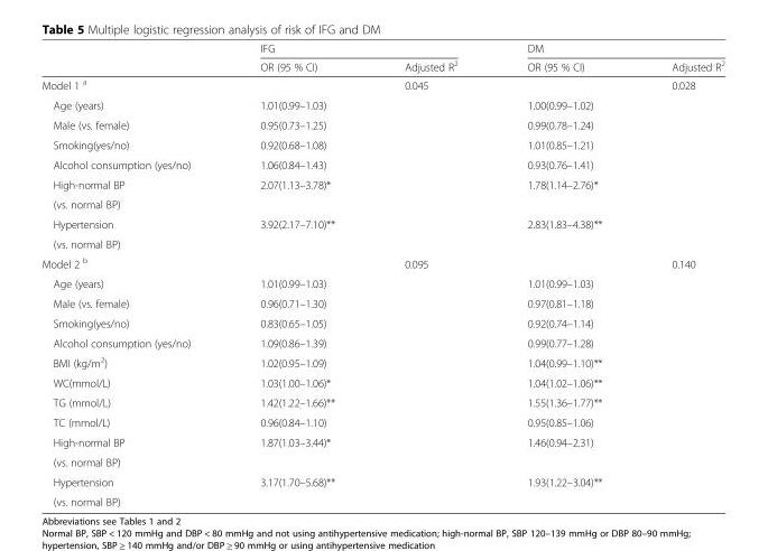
<table><thead><tr><td rowspan="2"></td><td colspan="2">IFG</td><td colspan="2">DM</td></tr><tr><td>OR (95 % CI)</td><td>Adjusted R<sup>2</sup></td><td>OR (95 % CI)</td><td>Adjusted R<sup>2</sup></td></tr></thead><tbody><tr><td>Model 1 <sup>a</sup></td><td></td><td>0.045</td><td></td><td>0.028</td></tr><tr><td>Age (years)</td><td>1.01(0.99–1.03)</td><td></td><td>1.00(0.99–1.02)</td><td></td></tr><tr><td>Male (vs. female)</td><td>0.95(0.73–1.25)</td><td></td><td>0.99(0.78–1.24)</td><td></td></tr><tr><td>Smoking(yes/no)</td><td>0.92(0.68–1.08)</td><td></td><td>1.01(0.85–1.21)</td><td></td></tr><tr><td>Alcohol consumption (yes/no)</td><td>1.06(0.84–1.43)</td><td></td><td>0.93(0.76–1.41)</td><td></td></tr><tr><td>High-normal BP</td><td rowspan="2">2.07(1.13–3.78)*</td><td rowspan="2"></td><td rowspan="2">1.78(1.14–2.76)*</td><td rowspan="2"></td></tr><tr><td>(vs. normal BP)</td></tr><tr><td>Hypertension</td><td rowspan="2">3.92(2.17–7.10)**</td><td rowspan="2"></td><td rowspan="2">2.83(1.83–4.38)**</td><td rowspan="2"></td></tr><tr><td>(vs. normal BP)</td></tr><tr><td>Model 2 <sup>b</sup></td><td></td><td>0.095</td><td></td><td>0.140</td></tr><tr><td>Age (years)</td><td>1.01(0.99–1.03)</td><td></td><td>1.01(0.99–1.03)</td><td></td></tr><tr><td>Male (vs. female)</td><td>0.96(0.71–1.30)</td><td></td><td>0.97(0.81–1.18)</td><td></td></tr><tr><td>Smoking(yes/no)</td><td>0.83(0.65–1.05)</td><td></td><td>0.92(0.74–1.14)</td><td></td></tr><tr><td>Alcohol consumption (yes/no)</td><td>1.09(0.86–1.39)</td><td></td><td>0.99(0.77–1.28)</td><td></td></tr><tr><td>BMI (kg/m<sup>2</sup>)</td><td>1.02(0.95–1.09)</td><td></td><td>1.04(0.99–1.10)**</td><td></td></tr><tr><td>WC(mmol/L)</td><td>1.03(1.00–1.06)*</td><td></td><td>1.04(1.02–1.06)**</td><td></td></tr><tr><td>TG (mmol/L)</td><td>1.42(1.22–1.66)**</td><td></td><td>1.55(1.36–1.77)**</td><td></td></tr><tr><td>TC (mmol/L)</td><td>0.96(0.84–1.10)</td><td></td><td>0.95(0.85–1.06)</td><td></td></tr><tr><td>High-normal BP</td><td rowspan="2">1.87(1.03–3.44)*</td><td rowspan="2"></td><td rowspan="2">1.46(0.94–2.31)</td><td rowspan="2"></td></tr><tr><td>(vs. normal BP)</td></tr><tr><td>Hypertension</td><td rowspan="2">3.17(1.70–5.68)**</td><td rowspan="2"></td><td rowspan="2">1.93(1.22–3.04)**</td><td rowspan="2"></td></tr><tr><td>(vs. normal BP)</td></tr></tbody></table>